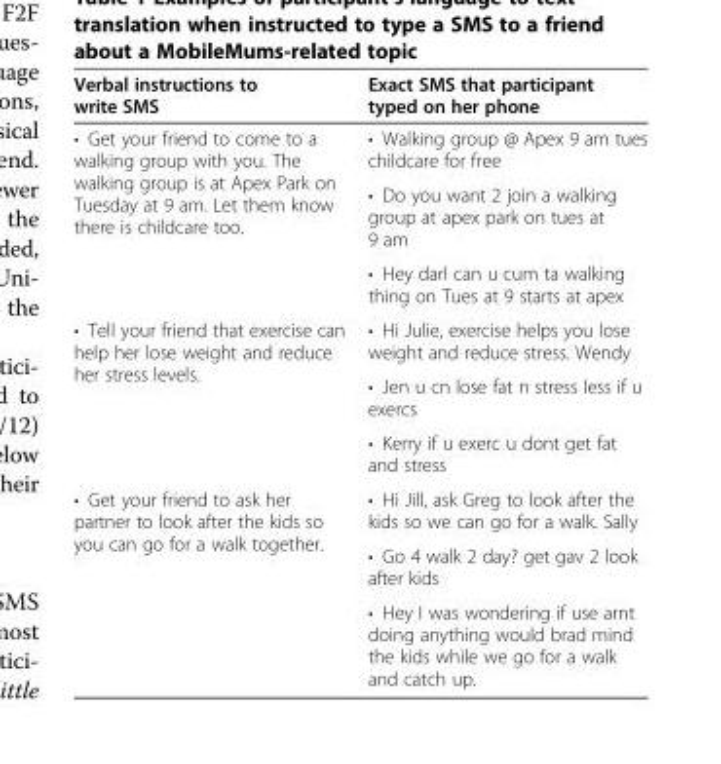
<table><thead><tr><td>Verbal instructions to write SMS</td><td>Exact SMS that participant typed on her phone</td></tr></thead><tbody><tr><td rowspan="3">• Get your friend to come to a walking group with you. The walking group is at Apex Park on Tuesday at 9 am. Let them know there is childcare too.</td><td>• Walking group @ Apex 9 am tues childcare for free</td></tr><tr><td>• Do you want 2 join a walking group at apex park on tues at 9 am</td></tr><tr><td>• Hey darl can u cum ta walking thing on Tues at 9 starts at apex</td></tr><tr><td rowspan="3">• Tell your friend that exercise can help her lose weight and reduce her stress levels.</td><td>• Hi Julie, exercise helps you lose weight and reduce stress. Wendy</td></tr><tr><td>• Jen u cn lose fat n stress less if u exercs</td></tr><tr><td>• Kerry if u exerc u dont get fat and stress</td></tr><tr><td rowspan="3">• Get your friend to ask her partner to look after the kids so you can go for a walk together.</td><td>• Hi Jill, ask Greg to look after the kids so we can go for a walk. Sally</td></tr><tr><td>• Go 4 walk 2 day? get gav 2 look after kids</td></tr><tr><td>• Hey I was wondering if use arnt doing anything would brad mind the kids while we go for a walk and catch up.</td></tr></tbody></table>